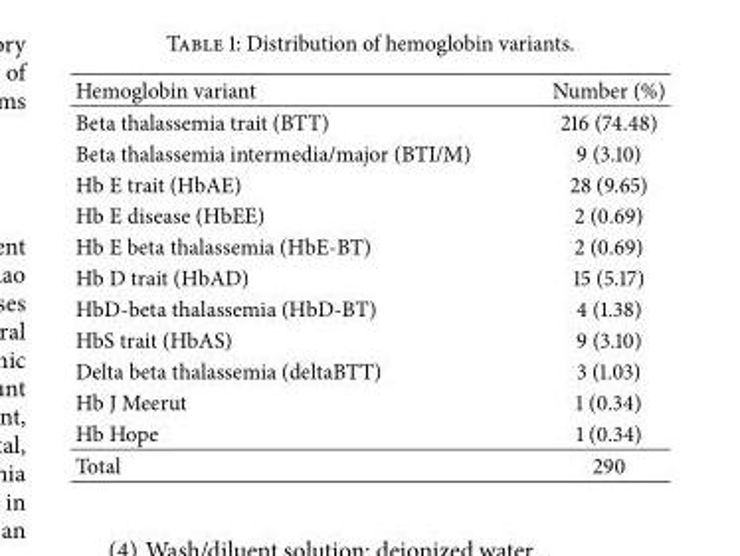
<table><thead><tr><td>Hemoglobin variant</td><td>Number (%)</td></tr></thead><tbody><tr><td>Beta thalassemia trait (BTT)</td><td>216 (74.48)</td></tr><tr><td>Beta thalassemia intermedia/major (BTI/M)</td><td>9 (3.10)</td></tr><tr><td>Hb E trait (HbAE)</td><td>28 (9.65)</td></tr><tr><td>Hb E disease (HbEE)</td><td>2 (0.69)</td></tr><tr><td>Hb E beta thalassemia (HbE-BT)</td><td>2 (0.69)</td></tr><tr><td>Hb D trait (HbAD)</td><td>15 (5.17)</td></tr><tr><td>HbD-beta thalassemia (HbD-BT)</td><td>4 (1.38)</td></tr><tr><td>HbS trait (HbAS)</td><td>9 (3.10)</td></tr><tr><td>Delta beta thalassemia (deltaBTT)</td><td>3 (1.03)</td></tr><tr><td>Hb J Meerut</td><td>1 (0.34)</td></tr><tr><td>Hb Hope</td><td>1 (0.34)</td></tr><tr><td>Total</td><td>290</td></tr></tbody></table>